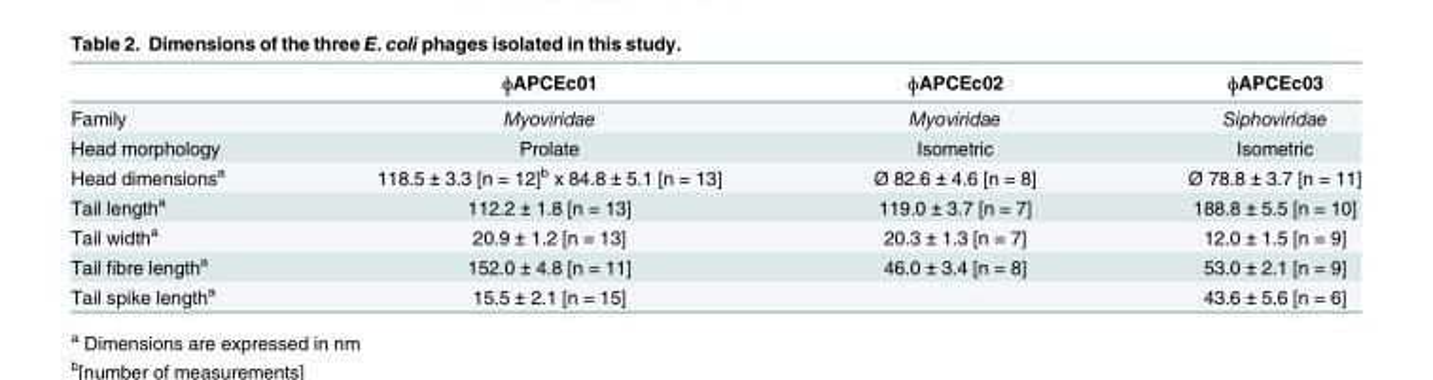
<table><thead><tr><td></td><td>ɸAPCEc01</td><td>ɸAPCEc02</td><td>ɸAPCEc03</td></tr></thead><tbody><tr><td>Family</td><td>Myoviridae</td><td>Myoviridae</td><td>Siphoviridae</td></tr><tr><td>Head morphology</td><td>Prolate</td><td>Isometric</td><td>Isometric</td></tr><tr><td>Head dimensions<sup>a</sup></td><td>118.5 ± 3.3 [n = 12]<sup>b</sup> x 84.8 ± 5.1 [n = 13]</td><td>Ø 82.6 ± 4.6 [n = 8]</td><td>Ø 78.8 ± 3.7 [n = 11]</td></tr><tr><td>Tail length<sup>a</sup></td><td>112.2 ± 1.8 [n = 13]</td><td>119.0 ± 3.7 [n = 7]</td><td>188.8 ± 5.5 [n = 10]</td></tr><tr><td>Tail width<sup>a</sup></td><td>20.9 ± 1.2 [n = 13]</td><td>20.3 ± 1.3 [n = 7]</td><td>12.0 ± 1.5 [n = 9]</td></tr><tr><td>Tail fibre length<sup>a</sup></td><td>152.0 ± 4.8 [n = 11]</td><td>46.0 ± 3.4 [n = 8]</td><td>53.0 ± 2.1 [n = 9]</td></tr><tr><td>Tail spike length<sup>a</sup></td><td>15.5 ± 2.1 [n = 15]</td><td></td><td>43.6 ± 5.6 [n = 6]</td></tr></tbody></table>